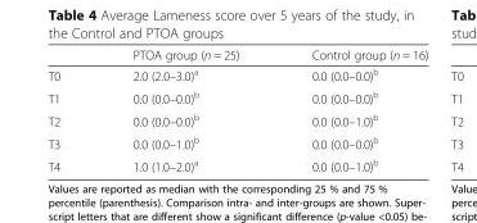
<table><thead><tr><td></td><td>PTOA group (n = 25)</td><td>Control group (n = 16)</td></tr></thead><tbody><tr><td>T0</td><td>2.0 (2.0–3.0)<sup>a</sup></td><td>0.0 (0.0–0.0)<sup>b</sup></td></tr><tr><td>T1</td><td>0.0 (0.0–0.0)<sup>b</sup></td><td>0.0 (0.0–0.0)<sup>b</sup></td></tr><tr><td>T2</td><td>0.0 (0.0–0.0)<sup>b</sup></td><td>0.0 (0.0–1.0)<sup>b</sup></td></tr><tr><td>T3</td><td>0.0 (0.0–1.0)<sup>b</sup></td><td>0.0 (0.0–0.0)<sup>b</sup></td></tr><tr><td>T4</td><td>1.0 (1.0–2.0)<sup>a</sup></td><td>0.0 (0.0–1.0)<sup>b</sup></td></tr></tbody></table>